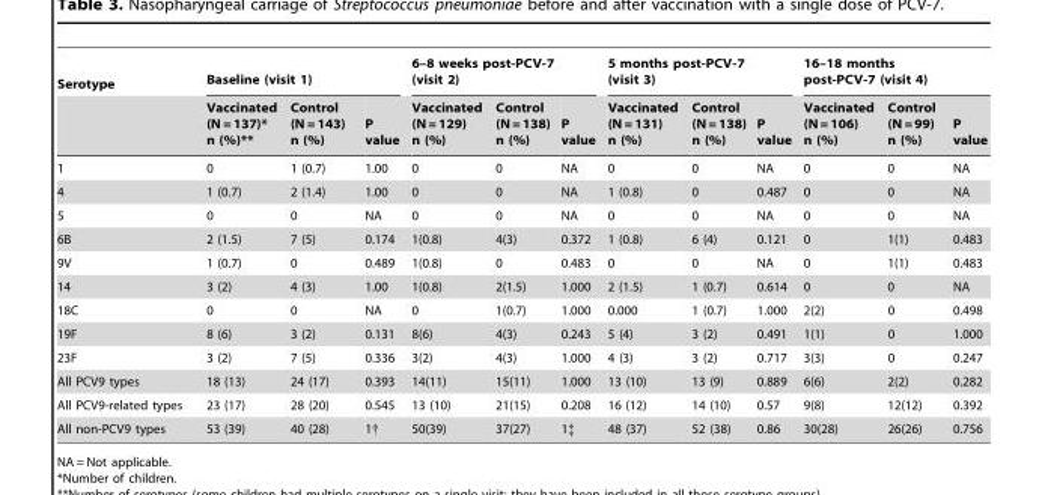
<table><thead><tr><td rowspan="2">Serotype</td><td colspan="3">Baseline (visit 1)</td><td colspan="3">6–8 weeks post-PCV-7 (visit 2)</td><td colspan="3">5 months post-PCV-7 (visit 3)</td><td colspan="3">16–18 months post-PCV-7 (visit 4)</td></tr><tr><td>Vaccinated (N = 137)* n (%)**</td><td>Control (N = 143) n (%)</td><td>P value</td><td>Vaccinated (N = 129) n (%)</td><td>Control (N = 138) n (%)</td><td>P value</td><td>Vaccinated (N = 131) n (%)</td><td>Control (N = 138) n (%)</td><td>P value</td><td>Vaccinated (N = 106) n (%)</td><td>Control (N = 99) n (%)</td><td>P value</td></tr></thead><tbody><tr><td>1</td><td>0</td><td>1 (0.7)</td><td>1.00</td><td>0</td><td>0</td><td>NA</td><td>0</td><td>0</td><td>NA</td><td>0</td><td>0</td><td>NA</td></tr><tr><td>4</td><td>1 (0.7)</td><td>2 (1.4)</td><td>1.00</td><td>0</td><td>0</td><td>NA</td><td>1 (0.8)</td><td>0</td><td>0.487</td><td>0</td><td>0</td><td>NA</td></tr><tr><td>5</td><td>0</td><td>0</td><td>NA</td><td>0</td><td>0</td><td>NA</td><td>0</td><td>0</td><td>NA</td><td>0</td><td>0</td><td>NA</td></tr><tr><td>6B</td><td>2 (1.5)</td><td>7 (5)</td><td>0.174</td><td>1(0.8)</td><td>4(3)</td><td>0.372</td><td>1 (0.8)</td><td>6 (4)</td><td>0.121</td><td>0</td><td>1(1)</td><td>0.483</td></tr><tr><td>9V</td><td>1 (0.7)</td><td>0</td><td>0.489</td><td>1(0.8)</td><td>0</td><td>0.483</td><td>0</td><td>0</td><td>NA</td><td>0</td><td>1(1)</td><td>0.483</td></tr><tr><td>14</td><td>3 (2)</td><td>4 (3)</td><td>1.00</td><td>1(0.8)</td><td>2(1.5)</td><td>1.000</td><td>2 (1.5)</td><td>1 (0.7)</td><td>0.614</td><td>0</td><td>0</td><td>NA</td></tr><tr><td>18C</td><td>0</td><td>0</td><td>NA</td><td>0</td><td>1(0.7)</td><td>1.000</td><td>0.000</td><td>1 (0.7)</td><td>1.000</td><td>2(2)</td><td>0</td><td>0.498</td></tr><tr><td>19F</td><td>8 (6)</td><td>3 (2)</td><td>0.131</td><td>8(6)</td><td>4(3)</td><td>0.243</td><td>5 (4)</td><td>3 (2)</td><td>0.491</td><td>1(1)</td><td>0</td><td>1.000</td></tr><tr><td>23F</td><td>3 (2)</td><td>7 (5)</td><td>0.336</td><td>3(2)</td><td>4(3)</td><td>1.000</td><td>4 (3)</td><td>3 (2)</td><td>0.717</td><td>3(3)</td><td>0</td><td>0.247</td></tr><tr><td>All PCV9 types</td><td>18 (13)</td><td>24 (17)</td><td>0.393</td><td>14(11)</td><td>15(11)</td><td>1.000</td><td>13 (10)</td><td>13 (9)</td><td>0.889</td><td>6(6)</td><td>2(2)</td><td>0.282</td></tr><tr><td>All PCV9-related types</td><td>23 (17)</td><td>28 (20)</td><td>0.545</td><td>13 (10)</td><td>21(15)</td><td>0.208</td><td>16 (12)</td><td>14 (10)</td><td>0.57</td><td>9(8)</td><td>12(12)</td><td>0.392</td></tr><tr><td>All non-PCV9 types</td><td>53 (39)</td><td>40 (28)</td><td>1†</td><td>50(39)</td><td>37(27)</td><td>1‡</td><td>48 (37)</td><td>52 (38)</td><td>0.86</td><td>30(28)</td><td>26(26)</td><td>0.756</td></tr></tbody></table>